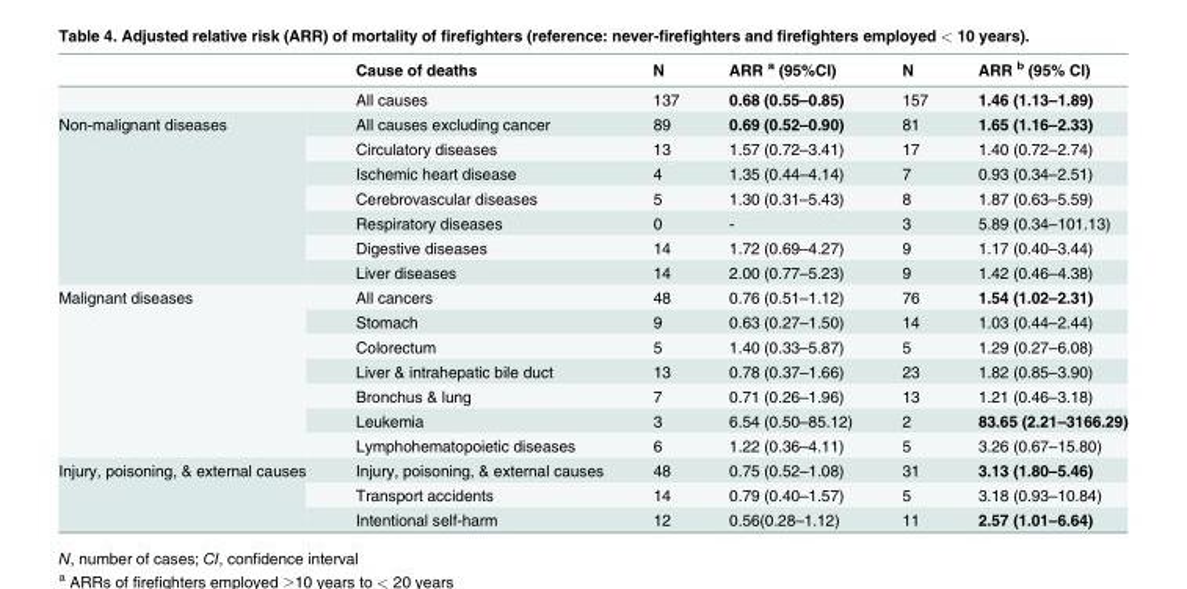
<table><thead><tr><td></td><td>Cause of deaths</td><td>N</td><td>ARR <sup>a</sup> (95%CI)</td><td>N</td><td>ARR <sup>b</sup> (95% CI)</td></tr></thead><tbody><tr><td></td><td>All causes</td><td>137</td><td>0.68 (0.55–0.85)</td><td>157</td><td>1.46 (1.13–1.89)</td></tr><tr><td rowspan="7">Non-malignant diseases</td><td>All causes excluding cancer</td><td>89</td><td>0.69 (0.52–0.90)</td><td>81</td><td>1.65 (1.16–2.33)</td></tr><tr><td>Circulatory diseases</td><td>13</td><td>1.57 (0.72–3.41)</td><td>17</td><td>1.40 (0.72–2.74)</td></tr><tr><td>Ischemic heart disease</td><td>4</td><td>1.35 (0.44–4.14)</td><td>7</td><td>0.93 (0.34–2.51)</td></tr><tr><td>Cerebrovascular diseases</td><td>5</td><td>1.30 (0.31–5.43)</td><td>8</td><td>1.87 (0.63–5.59)</td></tr><tr><td>Respiratory diseases</td><td>0</td><td>-</td><td>3</td><td>5.89 (0.34–101.13)</td></tr><tr><td>Digestive diseases</td><td>14</td><td>1.72 (0.69–4.27)</td><td>9</td><td>1.17 (0.40–3.44)</td></tr><tr><td>Liver diseases</td><td>14</td><td>2.00 (0.77–5.23)</td><td>9</td><td>1.42 (0.46–4.38)</td></tr><tr><td rowspan="7">Malignant diseases</td><td>All cancers</td><td>48</td><td>0.76 (0.51–1.12)</td><td>76</td><td>1.54 (1.02–2.31)</td></tr><tr><td>Stomach</td><td>9</td><td>0.63 (0.27–1.50)</td><td>14</td><td>1.03 (0.44–2.44)</td></tr><tr><td>Colorectum</td><td>5</td><td>1.40 (0.33–5.87)</td><td>5</td><td>1.29 (0.27–6.08)</td></tr><tr><td>Liver &amp; intrahepatic bile duct</td><td>13</td><td>0.78 (0.37–1.66)</td><td>23</td><td>1.82 (0.85–3.90)</td></tr><tr><td>Bronchus &amp; lung</td><td>7</td><td>0.71 (0.26–1.96)</td><td>13</td><td>1.21 (0.46–3.18)</td></tr><tr><td>Leukemia</td><td>3</td><td>6.54 (0.50–85.12)</td><td>2</td><td>83.65 (2.21–3166.29)</td></tr><tr><td>Lymphohematopoietic diseases</td><td>6</td><td>1.22 (0.36–4.11)</td><td>5</td><td>3.26 (0.67–15.80)</td></tr><tr><td rowspan="3">Injury, poisoning, &amp; external causes</td><td>Injury, poisoning, &amp; external causes</td><td>48</td><td>0.75 (0.52–1.08)</td><td>31</td><td>3.13 (1.80–5.46)</td></tr><tr><td>Transport accidents</td><td>14</td><td>0.79 (0.40–1.57)</td><td>5</td><td>3.18 (0.93–10.84)</td></tr><tr><td>Intentional self-harm</td><td>12</td><td>0.56(0.28–1.12)</td><td>11</td><td>2.57 (1.01–6.64)</td></tr></tbody></table>